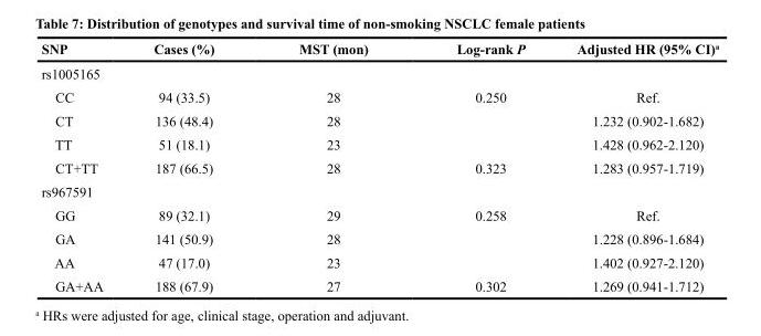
<table><thead><tr><td>SNP</td><td>Cases (%)</td><td>MST (mon)</td><td>Log-rank P</td><td>Adjusted HR (95% CI)<sup>a</sup></td></tr></thead><tbody><tr><td colspan="5">rs1005165</td></tr><tr><td>CC</td><td>94 (33.5)</td><td>28</td><td rowspan="3">0.250</td><td>Ref.</td></tr><tr><td>CT</td><td>136 (48.4)</td><td>28</td><td>1.232 (0.902-1.682)</td></tr><tr><td>TT</td><td>51 (18.1)</td><td>23</td><td>1.428 (0.962-2.120)</td></tr><tr><td>CT+TT</td><td>187 (66.5)</td><td>28</td><td>0.323</td><td>1.283 (0.957-1.719)</td></tr><tr><td colspan="5">rs967591</td></tr><tr><td>GG</td><td>89 (32.1)</td><td>29</td><td rowspan="3">0.258</td><td>Ref.</td></tr><tr><td>GA</td><td>141 (50.9)</td><td>28</td><td>1.228 (0.896-1.684)</td></tr><tr><td>AA</td><td>47 (17.0)</td><td>23</td><td>1.402 (0.927-2.120)</td></tr><tr><td>GA+AA</td><td>188 (67.9)</td><td>27</td><td>0.302</td><td>1.269 (0.941-1.712)</td></tr></tbody></table>